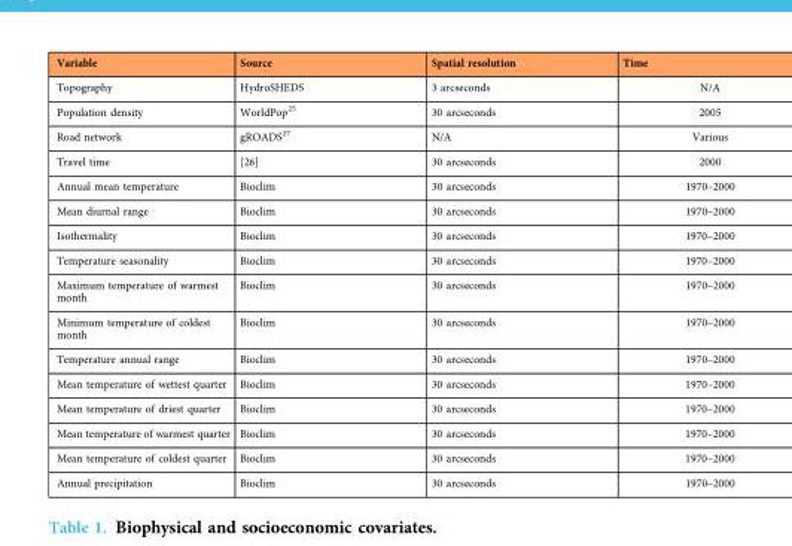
<table><thead><tr><td>Variable</td><td>Source</td><td>Spatial resolution</td><td>Time</td></tr></thead><tbody><tr><td>Topography</td><td>HydroSHEDS</td><td>3 arcseconds</td><td>N/A</td></tr><tr><td>Population density</td><td>WorldPop<sup>25</sup></td><td>30 arcseconds</td><td>2005</td></tr><tr><td>Road network</td><td>gROADS<sup>27</sup></td><td>N/A</td><td>Various</td></tr><tr><td>Travel time</td><td>[26]</td><td>30 arcseconds</td><td>2000</td></tr><tr><td>Annual mean temperature</td><td>Bioclim</td><td>30 arcseconds</td><td>1970–2000</td></tr><tr><td>Mean diurnal range</td><td>Bioclim</td><td>30 arcseconds</td><td>1970–2000</td></tr><tr><td>Isothermality</td><td>Bioclim</td><td>30 arcseconds</td><td>1970–2000</td></tr><tr><td>Temperature seasonality</td><td>Bioclim</td><td>30 arcseconds</td><td>1970–2000</td></tr><tr><td>Maximum temperature of warmest month</td><td>Bioclim</td><td>30 arcseconds</td><td>1970–2000</td></tr><tr><td>Minimum temperature of coldest month</td><td>Bioclim</td><td>30 arcseconds</td><td>1970–2000</td></tr><tr><td>Temperature annual range</td><td>Bioclim</td><td>30 arcseconds</td><td>1970–2000</td></tr><tr><td>Mean temperature of wettest quarter</td><td>Bioclim</td><td>30 arcseconds</td><td>1970–2000</td></tr><tr><td>Mean temperature of driest quarter</td><td>Bioclim</td><td>30 arcseconds</td><td>1970–2000</td></tr><tr><td>Mean temperature of warmest quarter</td><td>Bioclim</td><td>30 arcseconds</td><td>1970–2000</td></tr><tr><td>Mean temperature of coldest quarter</td><td>Bioclim</td><td>30 arcseconds</td><td>1970–2000</td></tr><tr><td>Annual precipitation</td><td>Bioclim</td><td>30 arcseconds</td><td>1970–2000</td></tr></tbody></table>